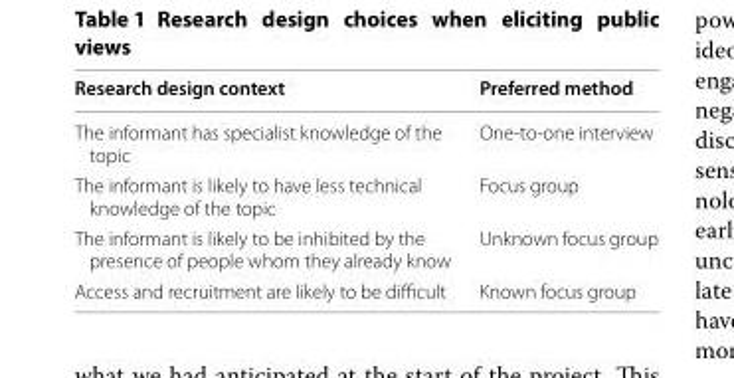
<table><thead><tr><td>Research design context</td><td>Preferred method</td></tr></thead><tbody><tr><td>The informant has specialist knowledge of the topic</td><td>One-to-one interview</td></tr><tr><td>The informant is likely to have less technical knowledge of the topic</td><td>Focus group</td></tr><tr><td>The informant is likely to be inhibited by the presence of people whom they already know</td><td>Unknown focus group</td></tr><tr><td>Access and recruitment are likely to be difficult</td><td>Known focus group</td></tr></tbody></table>